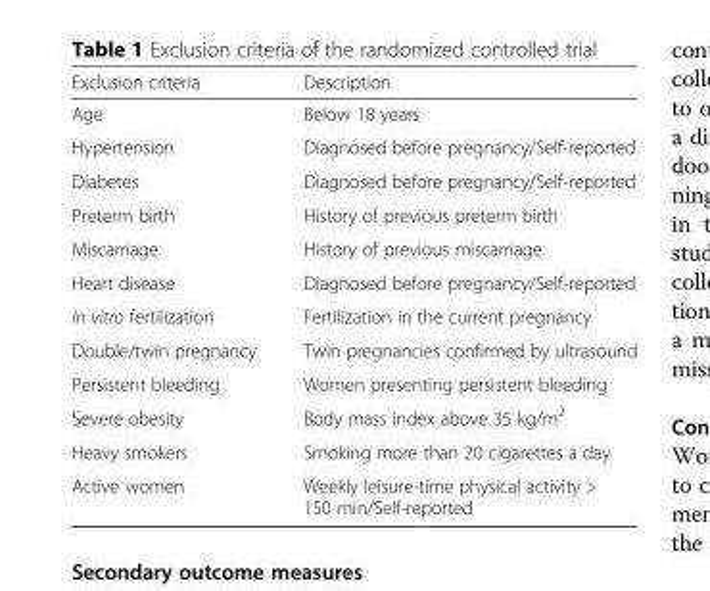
<table><thead><tr><td>Exclusion criteria</td><td>Description</td></tr></thead><tbody><tr><td>Age</td><td>Below 18 years</td></tr><tr><td>Hypertension</td><td>Diagnosed before pregnancy/Self-reported</td></tr><tr><td>Diabetes</td><td>Diagnosed before pregnancy/Self-reported</td></tr><tr><td>Preterm birth</td><td>History of previous preterm birth</td></tr><tr><td>Miscarriage</td><td>History of previous miscarriage</td></tr><tr><td>Heart disease</td><td>Diagnosed before pregnancy/Self-reported</td></tr><tr><td>In vitro fertilization</td><td>Fertilization in the current pregnancy</td></tr><tr><td>Double/twin pregnancy</td><td>Twin pregnancies confirmed by ultrasound</td></tr><tr><td>Persistent bleeding</td><td>Women presenting persistent bleeding</td></tr><tr><td>Severe obesity</td><td>Body mass index above 35 kg/m<sup>2</sup></td></tr><tr><td>Heavy smokers</td><td>Smoking more than 20 cigarettes a day</td></tr><tr><td>Active women</td><td>Weekly leisure-time physical activity &gt; 150 min/Self-reported</td></tr></tbody></table>